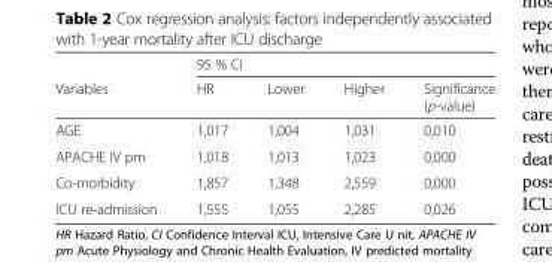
<table><thead><tr><td rowspan="2">Variables</td><td colspan="4">95 % CI</td></tr><tr><td>HR</td><td>Lower</td><td>Higher</td><td>Significance (p-value)</td></tr></thead><tbody><tr><td>AGE</td><td>1,017</td><td>1,004</td><td>1,031</td><td>0,010</td></tr><tr><td>APACHE IV pm</td><td>1,018</td><td>1,013</td><td>1,023</td><td>0,000</td></tr><tr><td>Co-morbidity</td><td>1,857</td><td>1,348</td><td>2,559</td><td>0,000</td></tr><tr><td>ICU re-admission</td><td>1,555</td><td>1,055</td><td>2,285</td><td>0,026</td></tr></tbody></table>